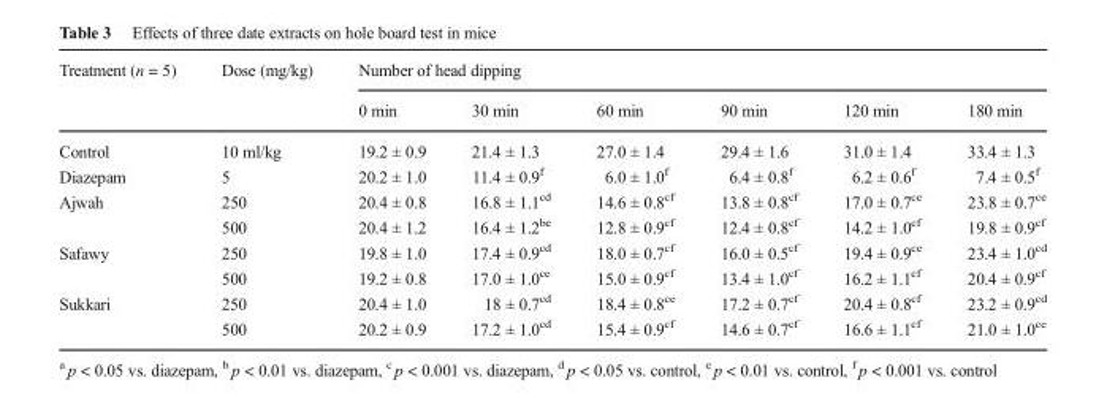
<table><thead><tr><td rowspan="2">Treatment (n = 5)</td><td rowspan="2">Dose (mg/kg)</td><td colspan="6">Number of head dipping</td></tr><tr><td>0 min</td><td>30 min</td><td>60 min</td><td>90 min</td><td>120 min</td><td>180 min</td></tr></thead><tbody><tr><td>Control</td><td>10 ml/kg</td><td>19.2 ± 0.9</td><td>21.4 ± 1.3</td><td>27.0 ± 1.4</td><td>29.4 ± 1.6</td><td>31.0 ± 1.4</td><td>33.4 ± 1.3</td></tr><tr><td>Diazepam</td><td>5</td><td>20.2 ± 1.0</td><td>11.4 ± 0.9<sup>f</sup></td><td>6.0 ± 1.0<sup>f</sup></td><td>6.4 ± 0.8<sup>f</sup></td><td>6.2 ± 0.6<sup>f</sup></td><td>7.4 ± 0.5<sup>f</sup></td></tr><tr><td rowspan="2">Ajwah</td><td>250</td><td>20.4 ± 0.8</td><td>16.8 ± 1.1<sup>cd</sup></td><td>14.6 ± 0.8<sup>cf</sup></td><td>13.8 ± 0.8<sup>cf</sup></td><td>17.0 ± 0.7<sup>ce</sup></td><td>23.8 ± 0.7<sup>ce</sup></td></tr><tr><td>500</td><td>20.4 ± 1.2</td><td>16.4 ± 1.2<sup>be</sup></td><td>12.8 ± 0.9<sup>cf</sup></td><td>12.4 ± 0.8<sup>cf</sup></td><td>14.2 ± 1.0<sup>cf</sup></td><td>19.8 ± 0.9<sup>cf</sup></td></tr><tr><td rowspan="2">Safawy</td><td>250</td><td>19.8 ± 1.0</td><td>17.4 ± 0.9<sup>cd</sup></td><td>18.0 ± 0.7<sup>cf</sup></td><td>16.0 ± 0.5<sup>cf</sup></td><td>19.4 ± 0.9<sup>ce</sup></td><td>23.4 ± 1.0<sup>cd</sup></td></tr><tr><td>500</td><td>19.2 ± 0.8</td><td>17.0 ± 1.0<sup>ce</sup></td><td>15.0 ± 0.9<sup>cf</sup></td><td>13.4 ± 1.0<sup>cf</sup></td><td>16.2 ± 1.1<sup>cf</sup></td><td>20.4 ± 0.9<sup>cf</sup></td></tr><tr><td rowspan="2">Sukkari</td><td>250</td><td>20.4 ± 1.0</td><td>18 ± 0.7<sup>cd</sup></td><td>18.4 ± 0.8<sup>ce</sup></td><td>17.2 ± 0.7<sup>cf</sup></td><td>20.4 ± 0.8<sup>cf</sup></td><td>23.2 ± 0.9<sup>cd</sup></td></tr><tr><td>500</td><td>20.2 ± 0.9</td><td>17.2 ± 1.0<sup>cd</sup></td><td>15.4 ± 0.9<sup>cf</sup></td><td>14.6 ± 0.7<sup>cf</sup></td><td>16.6 ± 1.1<sup>cf</sup></td><td>21.0 ± 1.0<sup>ce</sup></td></tr></tbody></table>